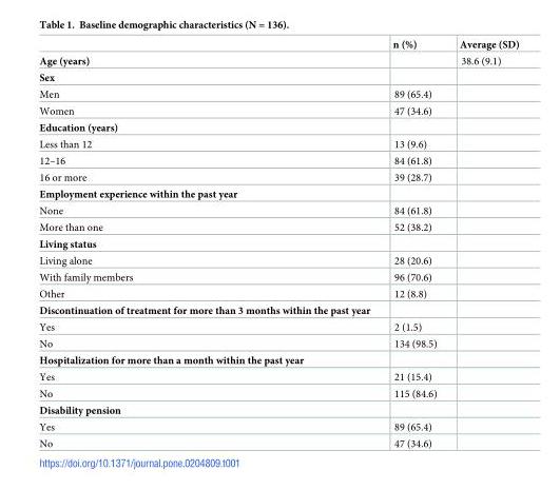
<table><thead><tr><td></td><td>n (%)</td><td>Average (SD)</td></tr></thead><tbody><tr><td>Age (years)</td><td></td><td>38.6 (9.1)</td></tr><tr><td colspan="3">Sex</td></tr><tr><td>Men</td><td>89 (65.4)</td><td></td></tr><tr><td>Women</td><td>47 (34.6)</td><td></td></tr><tr><td colspan="3">Education (years)</td></tr><tr><td>Less than 12</td><td>13 (9.6)</td><td></td></tr><tr><td>12–16</td><td>84 (61.8)</td><td></td></tr><tr><td>16 or more</td><td>39 (28.7)</td><td></td></tr><tr><td colspan="3">Employment experience within the past year</td></tr><tr><td>None</td><td>84 (61.8)</td><td></td></tr><tr><td>More than one</td><td>52 (38.2)</td><td></td></tr><tr><td colspan="3">Living status</td></tr><tr><td>Living alone</td><td>28 (20.6)</td><td></td></tr><tr><td>With family members</td><td>96 (70.6)</td><td></td></tr><tr><td>Other</td><td>12 (8.8)</td><td></td></tr><tr><td colspan="3">Discontinuation of treatment for more than 3 months within the past year</td></tr><tr><td>Yes</td><td>2 (1.5)</td><td></td></tr><tr><td>No</td><td>134 (98.5)</td><td></td></tr><tr><td colspan="3">Hospitalization for more than a month within the past year</td></tr><tr><td>Yes</td><td>21 (15.4)</td><td></td></tr><tr><td>No</td><td>115 (84.6)</td><td></td></tr><tr><td colspan="3">Disability pension</td></tr><tr><td>Yes</td><td>89 (65.4)</td><td></td></tr><tr><td>No</td><td>47 (34.6)</td><td></td></tr></tbody></table>